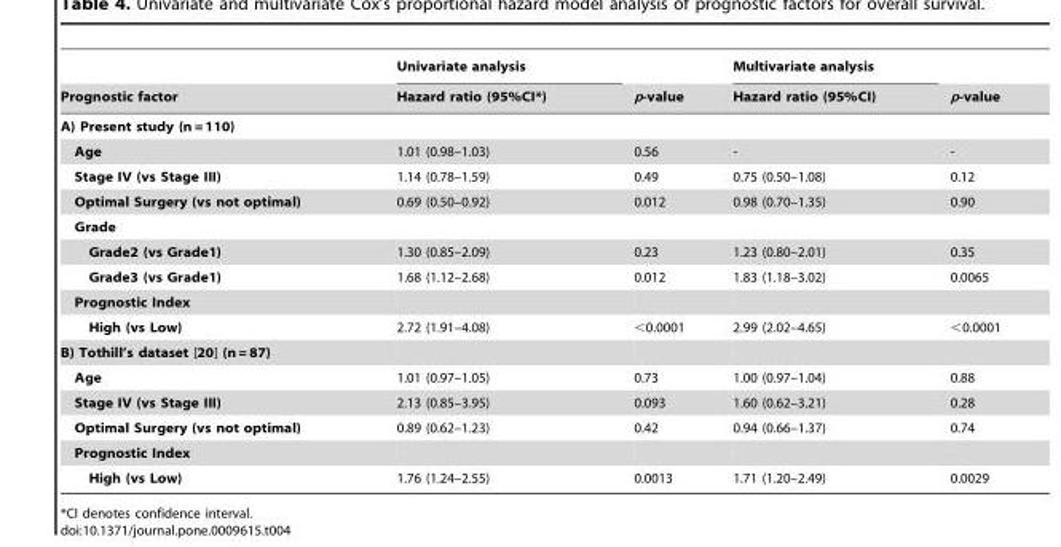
<table><thead><tr><td rowspan="2">Prognostic factor</td><td rowspan="2">Univariate analysis Hazard ratio (95%CI*)</td><td rowspan="2">p-value</td><td rowspan="2">Multivariate analysis Hazard ratio (95%CI)</td><td rowspan="2">p-value</td></tr><tr></tr></thead><tbody><tr><td colspan="5">A) Present study (n = 110)</td></tr><tr><td>Age</td><td>1.01 (0.98–1.03)</td><td>0.56</td><td>-</td><td>-</td></tr><tr><td>Stage IV (vs Stage III)</td><td>1.14 (0.78–1.59)</td><td>0.49</td><td>0.75 (0.50–1.08)</td><td>0.12</td></tr><tr><td>Optimal Surgery (vs not optimal)</td><td>0.69 (0.50–0.92)</td><td>0.012</td><td>0.98 (0.70–1.35)</td><td>0.90</td></tr><tr><td colspan="5">Grade</td></tr><tr><td>Grade2 (vs Grade1)</td><td>1.30 (0.85–2.09)</td><td>0.23</td><td>1.23 (0.80–2.01)</td><td>0.35</td></tr><tr><td>Grade3 (vs Grade1)</td><td>1.68 (1.12–2.68)</td><td>0.012</td><td>1.83 (1.18–3.02)</td><td>0.0065</td></tr><tr><td colspan="5">Prognostic Index</td></tr><tr><td>High (vs Low)</td><td>2.72 (1.91–4.08)</td><td>&lt;0.0001</td><td>2.99 (2.02–4.65)</td><td>&lt;0.0001</td></tr><tr><td colspan="5">B) Tothill’s dataset [20] (n = 87)</td></tr><tr><td>Age</td><td>1.01 (0.97–1.05)</td><td>0.73</td><td>1.00 (0.97–1.04)</td><td>0.88</td></tr><tr><td>Stage IV (vs Stage III)</td><td>2.13 (0.85–3.95)</td><td>0.093</td><td>1.60 (0.62–3.21)</td><td>0.28</td></tr><tr><td>Optimal Surgery (vs not optimal)</td><td>0.89 (0.62–1.23)</td><td>0.42</td><td>0.94 (0.66–1.37)</td><td>0.74</td></tr><tr><td colspan="5">Prognostic Index</td></tr><tr><td>High (vs Low)</td><td>1.76 (1.24–2.55)</td><td>0.0013</td><td>1.71 (1.20–2.49)</td><td>0.0029</td></tr></tbody></table>